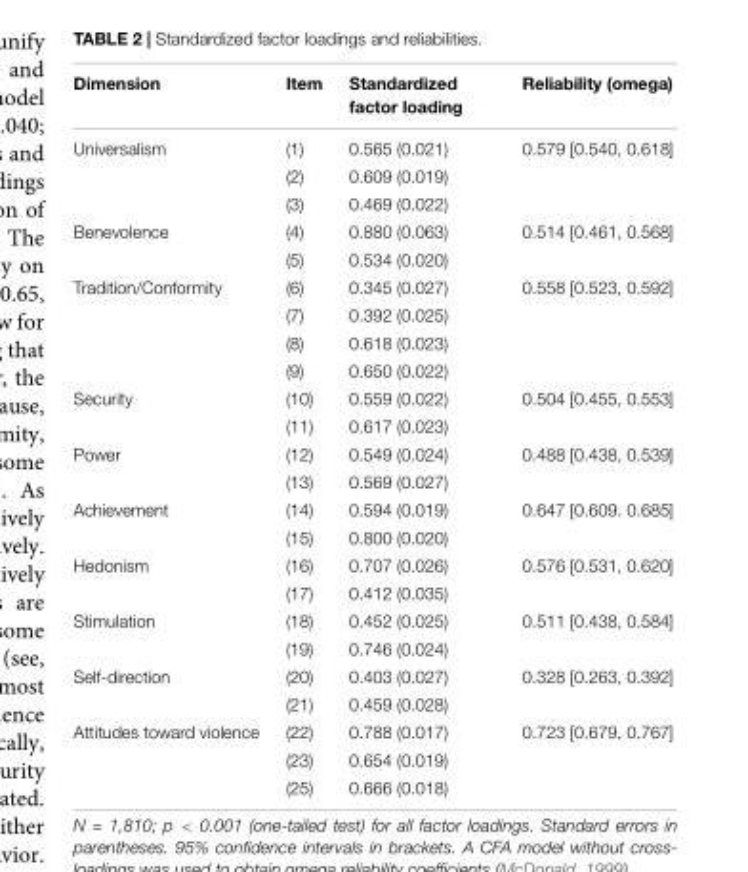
<table><thead><tr><td>Dimension</td><td>Item</td><td>Standardized factor loading</td><td>Reliability (omega)</td></tr></thead><tbody><tr><td rowspan="3">Universalism</td><td>(1)</td><td>0.565 (0.021)</td><td>0.579 [0.540, 0.618]</td></tr><tr><td>(2)</td><td>0.609 (0.019)</td><td></td></tr><tr><td>(3)</td><td>0.469 (0.022)</td><td></td></tr><tr><td rowspan="2">Benevolence</td><td>(4)</td><td>0.880 (0.063)</td><td>0.514 [0.461, 0.568]</td></tr><tr><td>(5)</td><td>0.534 (0.020)</td><td></td></tr><tr><td rowspan="4">Tradition/Conformity</td><td>(6)</td><td>0.345 (0.027)</td><td>0.558 [0.523, 0.592]</td></tr><tr><td>(7)</td><td>0.392 (0.025)</td><td></td></tr><tr><td>(8)</td><td>0.618 (0.023)</td><td></td></tr><tr><td>(9)</td><td>0.650 (0.022)</td><td></td></tr><tr><td rowspan="2">Security</td><td>(10)</td><td>0.559 (0.022)</td><td>0.504 [0.455, 0.553]</td></tr><tr><td>(11)</td><td>0.617 (0.023)</td><td></td></tr><tr><td rowspan="2">Power</td><td>(12)</td><td>0.549 (0.024)</td><td>0.488 [0.438, 0.539]</td></tr><tr><td>(13)</td><td>0.569 (0.027)</td><td></td></tr><tr><td rowspan="2">Achievement</td><td>(14)</td><td>0.594 (0.019)</td><td>0.647 [0.609. 0.685]</td></tr><tr><td>(15)</td><td>0.800 (0.020)</td><td></td></tr><tr><td rowspan="2">Hedonism</td><td>(16)</td><td>0.707 (0.026)</td><td>0.576 [0.531, 0.620]</td></tr><tr><td>(17)</td><td>0.412 (0.035)</td><td></td></tr><tr><td rowspan="2">Stimulation</td><td>(18)</td><td>0.452 (0.025)</td><td>0.511 [0.438, 0.584]</td></tr><tr><td>(19)</td><td>0.746 (0.024)</td><td></td></tr><tr><td rowspan="2">Self-direction</td><td>(20)</td><td>0.403 (0.027)</td><td>0.328 [0.263, 0.392]</td></tr><tr><td>(21)</td><td>0.459 (0.028)</td><td></td></tr><tr><td rowspan="3">Attitudes toward violence</td><td>(22)</td><td>0.788 (0.017)</td><td>0.723 [0.679, 0.767]</td></tr><tr><td>(23)</td><td>0.654 (0.019)</td><td></td></tr><tr><td>(25)</td><td>0.666 (0.018)</td><td></td></tr></tbody></table>